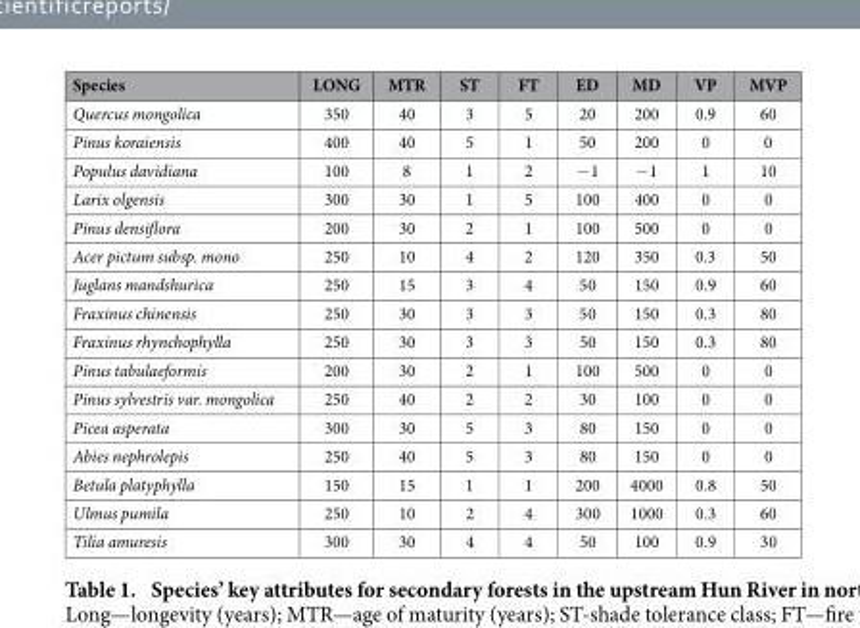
<table><thead><tr><td>Species</td><td>LONG</td><td>MTR</td><td>ST</td><td>FT</td><td>ED</td><td>MD</td><td>VP</td><td>MVP</td></tr></thead><tbody><tr><td>Quercus mongolica</td><td>350</td><td>40</td><td>3</td><td>5</td><td>20</td><td>200</td><td>0.9</td><td>60</td></tr><tr><td>Pinus koraiensis</td><td>400</td><td>40</td><td>5</td><td>1</td><td>50</td><td>200</td><td>0</td><td>0</td></tr><tr><td>Populus davidiana</td><td>100</td><td>8</td><td>1</td><td>2</td><td>− 1</td><td>− 1</td><td>1</td><td>10</td></tr><tr><td>Larix olgensis</td><td>300</td><td>30</td><td>1</td><td>5</td><td>100</td><td>400</td><td>0</td><td>0</td></tr><tr><td>Pinus densiflora</td><td>200</td><td>30</td><td>2</td><td>1</td><td>100</td><td>500</td><td>0</td><td>0</td></tr><tr><td>Acer pictum subsp. mono</td><td>250</td><td>10</td><td>4</td><td>2</td><td>120</td><td>350</td><td>0.3</td><td>50</td></tr><tr><td>Juglans mandshurica</td><td>250</td><td>15</td><td>3</td><td>4</td><td>50</td><td>150</td><td>0.9</td><td>60</td></tr><tr><td>Fraxinus chinensis</td><td>250</td><td>30</td><td>3</td><td>3</td><td>50</td><td>150</td><td>0.3</td><td>80</td></tr><tr><td>Fraxinus rhynchophylla</td><td>250</td><td>30</td><td>3</td><td>3</td><td>50</td><td>150</td><td>0.3</td><td>80</td></tr><tr><td>Pinus tabulaeformis</td><td>200</td><td>30</td><td>2</td><td>1</td><td>100</td><td>500</td><td>0</td><td>0</td></tr><tr><td>Pinus sylvestris var. mongolica</td><td>250</td><td>40</td><td>2</td><td>2</td><td>30</td><td>100</td><td>0</td><td>0</td></tr><tr><td>Picea asperata</td><td>300</td><td>30</td><td>5</td><td>3</td><td>80</td><td>150</td><td>0</td><td>0</td></tr><tr><td>Abies nephrolepis</td><td>250</td><td>40</td><td>5</td><td>3</td><td>80</td><td>150</td><td>0</td><td>0</td></tr><tr><td>Betula platyphylla</td><td>150</td><td>15</td><td>1</td><td>1</td><td>200</td><td>4000</td><td>0.8</td><td>50</td></tr><tr><td>Ulmus pumila</td><td>250</td><td>10</td><td>2</td><td>4</td><td>300</td><td>1000</td><td>0.3</td><td>60</td></tr><tr><td>Tilia amuresis</td><td>300</td><td>30</td><td>4</td><td>4</td><td>50</td><td>100</td><td>0.9</td><td>30</td></tr></tbody></table>